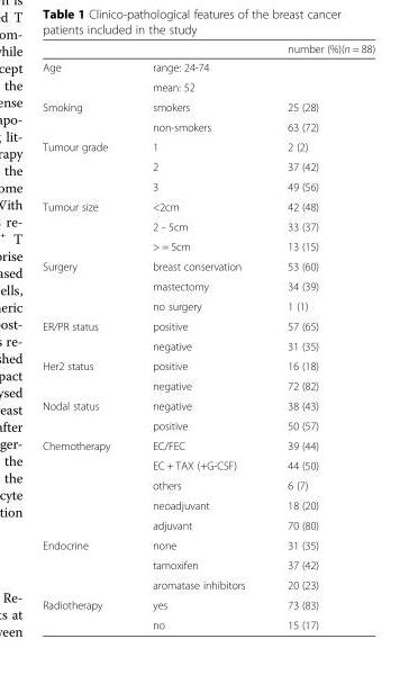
<table><thead><tr><td></td><td></td><td>number (%)(n = 88)</td></tr></thead><tbody><tr><td rowspan="2">Age</td><td>range: 24-74</td><td></td></tr><tr><td>mean: 52</td><td></td></tr><tr><td rowspan="2">Smoking</td><td>smokers</td><td>25 (28)</td></tr><tr><td>non-smokers</td><td>63 (72)</td></tr><tr><td rowspan="3">Tumour grade</td><td>1</td><td>2 (2)</td></tr><tr><td>2</td><td>37 (42)</td></tr><tr><td>3</td><td>49 (56)</td></tr><tr><td rowspan="3">Tumour size</td><td>&lt;2cm</td><td>42 (48)</td></tr><tr><td>2 - 5cm</td><td>33 (37)</td></tr><tr><td>&gt; = 5cm</td><td>13 (15)</td></tr><tr><td rowspan="3">Surgery</td><td>breast conservation</td><td>53 (60)</td></tr><tr><td>mastectomy</td><td>34 (39)</td></tr><tr><td>no surgery</td><td>1 (1)</td></tr><tr><td rowspan="2">ER/PR status</td><td>positive</td><td>57 (65)</td></tr><tr><td>negative</td><td>31 (35)</td></tr><tr><td rowspan="2">Her2 status</td><td>positive</td><td>16 (18)</td></tr><tr><td>negative</td><td>72 (82)</td></tr><tr><td rowspan="2">Nodal status</td><td>negative</td><td>38 (43)</td></tr><tr><td>positive</td><td>50 (57)</td></tr><tr><td rowspan="5">Chemotherapy</td><td>EC/FEC</td><td>39 (44)</td></tr><tr><td>EC + TAX (+G-CSF)</td><td>44 (50)</td></tr><tr><td>others</td><td>6 (7)</td></tr><tr><td>neoadjuvant</td><td>18 (20)</td></tr><tr><td>adjuvant</td><td>70 (80)</td></tr><tr><td rowspan="3">Endocrine</td><td>none</td><td>31 (35)</td></tr><tr><td>tamoxifen</td><td>37 (42)</td></tr><tr><td>aromatase inhibitors</td><td>20 (23)</td></tr><tr><td rowspan="2">Radiotherapy</td><td>yes</td><td>73 (83)</td></tr><tr><td>no</td><td>15 (17)</td></tr></tbody></table>